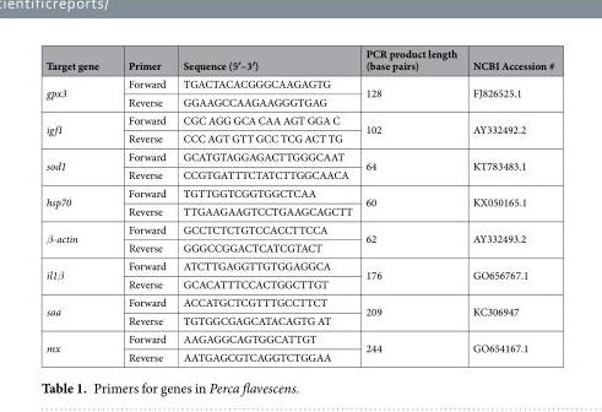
<table><thead><tr><td>Target gene</td><td>Primer</td><td>Sequence (5′–3′)</td><td>PCR product length (base pairs)</td><td>NCBI Accession #</td></tr></thead><tbody><tr><td rowspan="2">gpx3</td><td>Forward</td><td>TGACTACACGGGCAAGAGTG</td><td rowspan="2">128</td><td rowspan="2">FJ826525.1</td></tr><tr><td>Reverse</td><td>GGAAGCCAAGAAGGGTGAG</td></tr><tr><td rowspan="2">igf1</td><td>Forward</td><td>CGC AGG GCA CAA AGT GGA C</td><td rowspan="2">102</td><td rowspan="2">AY332492.2</td></tr><tr><td>Reverse</td><td>CCC AGT GTT GCC TCG ACT TG</td></tr><tr><td rowspan="2">sod1</td><td>Forward</td><td>GCATGTAGGAGACTTGGGCAAT</td><td rowspan="2">64</td><td rowspan="2">KT783483.1</td></tr><tr><td>Reverse</td><td>CCGTGATTTCTATCTTGGCAACA</td></tr><tr><td rowspan="2">hsp70</td><td>Forward</td><td>TGTTGGTCGGTGGCTCAA</td><td rowspan="2">60</td><td rowspan="2">KX050165.1</td></tr><tr><td>Reverse</td><td>TTGAAGAAGTCCTGAAGCAGCTT</td></tr><tr><td rowspan="2">β-actin</td><td>Forward</td><td>GCCTCTCTGTCCACCTTCCA</td><td rowspan="2">62</td><td rowspan="2">AY332493.2</td></tr><tr><td>Reverse</td><td>GGGCCGGACTCATCGTACT</td></tr><tr><td rowspan="2">il1β</td><td>Forward</td><td>ATCTTGAGGTTGTGGAGGCA</td><td rowspan="2">176</td><td rowspan="2">GO656767.1</td></tr><tr><td>Reverse</td><td>GCACATTTCCACTGGCTTGT</td></tr><tr><td rowspan="2">saa</td><td>Forward</td><td>ACCATGCTCGTTTGCCTTCT</td><td rowspan="2">209</td><td rowspan="2">KC306947</td></tr><tr><td>Reverse</td><td>TGTGGCGAGCATACAGTG AT</td></tr><tr><td rowspan="2">mx</td><td>Forward</td><td>AAGAGGCAGTGGCATTGT</td><td rowspan="2">244</td><td rowspan="2">GO654167.1</td></tr><tr><td>Reverse</td><td>AATGAGCGTCAGGTCTGGAA</td></tr></tbody></table>